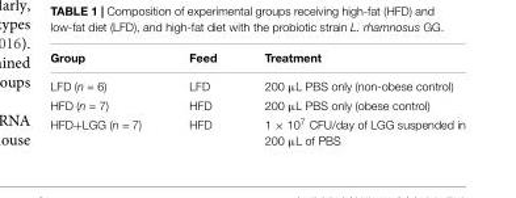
<table><thead><tr><td>Group</td><td>Feed</td><td>Treatment</td></tr></thead><tbody><tr><td>LFD (n = 6)</td><td>LFD</td><td>200 µL PBS only (non-obese control)</td></tr><tr><td>HFD (n = 7)</td><td>HFD</td><td>200 µL PBS only (obese control)</td></tr><tr><td>HFD+LGG (n = 7)</td><td>HFD</td><td>1 × 10<sup>7</sup> CFU/day of LGG suspended in 200 µL of PBS</td></tr></tbody></table>